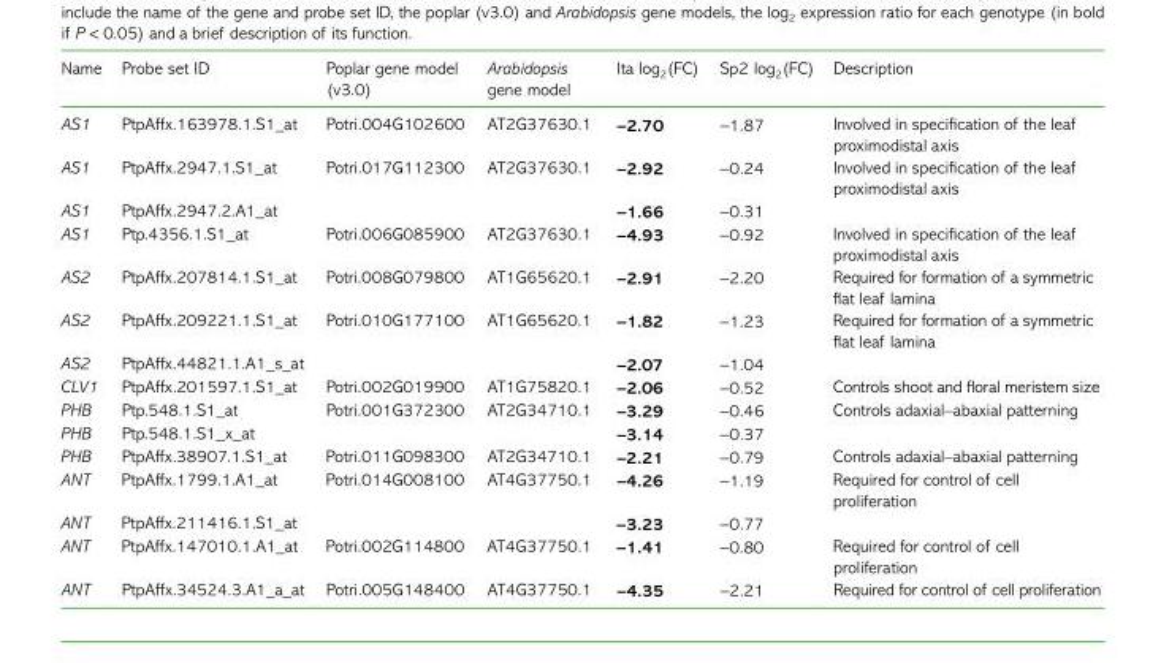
<table><thead><tr><td>Name</td><td>Probe set ID</td><td>Poplar gene model (v3.0)</td><td>Arabidopsis gene model</td><td>Ita log<sub>2</sub>(FC)</td><td>Sp2 log<sub>2</sub>(FC)</td><td>Description</td></tr></thead><tbody><tr><td>AS1</td><td>PtpAffx.163978.1.S1_at</td><td>Potri.004G102600</td><td>AT2G37630.1</td><td>−2.70</td><td>−1.87</td><td>Involved in specification of the leaf proximodistal axis</td></tr><tr><td>AS1</td><td>PtpAffx.2947.1.S1_at</td><td>Potri.017G112300</td><td>AT2G37630.1</td><td>−2.92</td><td>−0.24</td><td>Involved in specification of the leaf proximodistal axis</td></tr><tr><td>AS1</td><td>PtpAffx.2947.2.A1_at</td><td></td><td></td><td>−1.66</td><td>−0.31</td><td></td></tr><tr><td>AS1</td><td>Ptp.4356.1.S1_at</td><td>Potri.006G085900</td><td>AT2G37630.1</td><td>−4.93</td><td>−0.92</td><td>Involved in specification of the leaf proximodistal axis</td></tr><tr><td>AS2</td><td>PtpAffx.207814.1.S1_at</td><td>Potri.008G079800</td><td>AT1G65620.1</td><td>−2.91</td><td>−2.20</td><td>Required for formation of a symmetric flat leaf lamina</td></tr><tr><td>AS2</td><td>PtpAffx.209221.1.S1_at</td><td>Potri.010G177100</td><td>AT1G65620.1</td><td>−1.82</td><td>−1.23</td><td>Required for formation of a symmetric flat leaf lamina</td></tr><tr><td>AS2</td><td>PtpAffx.44821.1.A1_s_at</td><td></td><td></td><td>−2.07</td><td>−1.04</td><td></td></tr><tr><td>CLV1</td><td>PtpAffx.201597.1.S1_at</td><td>Potri.002G019900</td><td>AT1G75820.1</td><td>−2.06</td><td>−0.52</td><td>Controls shoot and floral meristem size</td></tr><tr><td>PHB</td><td>Ptp.548.1.S1_at</td><td>Potri.001G372300</td><td>AT2G34710.1</td><td>−3.29</td><td>−0.46</td><td>Controls adaxial–abaxial patterning</td></tr><tr><td>PHB</td><td>Ptp.548.1.S1_x_at</td><td></td><td></td><td>−3.14</td><td>−0.37</td><td></td></tr><tr><td>PHB</td><td>PtpAffx.38907.1.S1_at</td><td>Potri.011G098300</td><td>AT2G34710.1</td><td>−2.21</td><td>−0.79</td><td>Controls adaxial–abaxial patterning</td></tr><tr><td>ANT</td><td>PtpAffx.1799.1.A1_at</td><td>Potri.014G008100</td><td>AT4G37750.1</td><td>−4.26</td><td>−1.19</td><td>Required for control of cell proliferation</td></tr><tr><td>ANT</td><td>PtpAffx.211416.1.S1_at</td><td></td><td></td><td>−3.23</td><td>−0.77</td><td></td></tr><tr><td>ANT</td><td>PtpAffx.147010.1.A1_at</td><td>Potri.002G114800</td><td>AT4G37750.1</td><td>−1.41</td><td>−0.80</td><td>Required for control of cell proliferation</td></tr><tr><td>ANT</td><td>PtpAffx.34524.3.A1_a_at</td><td>Potri.005G148400</td><td>AT4G37750.1</td><td>−4.35</td><td>−2.21</td><td>Required for control of cell proliferation</td></tr></tbody></table>